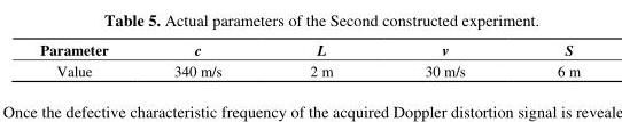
<table><thead><tr><td>Parameter</td><td>c</td><td>L</td><td>v</td><td>S</td></tr></thead><tbody><tr><td>Value</td><td>340 m/s</td><td>2 m</td><td>30 m/s</td><td>6 m</td></tr></tbody></table>